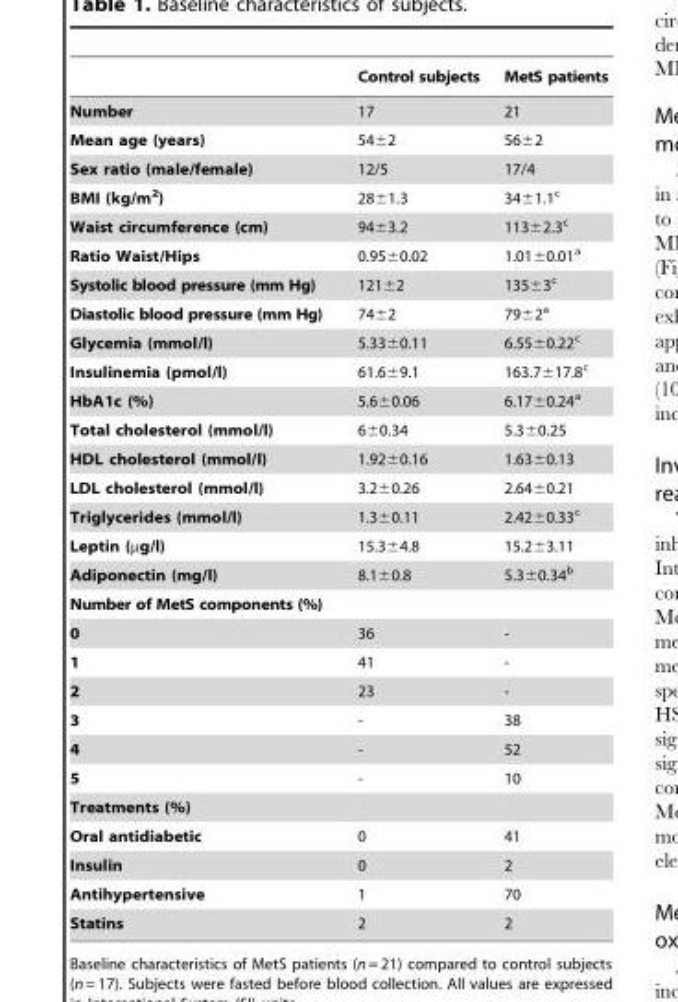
<table><thead><tr><td></td><td>Control subjects</td><td>MetS patients</td></tr></thead><tbody><tr><td>Number</td><td>17</td><td>21</td></tr><tr><td>Mean age (years)</td><td>54±2</td><td>56±2</td></tr><tr><td>Sex ratio (male/female)</td><td>12/5</td><td>17/4</td></tr><tr><td>BMI (kg/m<sup>2</sup>)</td><td>28±1.3</td><td>34±1.1<sup>c</sup></td></tr><tr><td>Waist circumference (cm)</td><td>94±3.2</td><td>113±2.3<sup>c</sup></td></tr><tr><td>Ratio Waist/Hips</td><td>0.95±0.02</td><td>1.01±0.01<sup>a</sup></td></tr><tr><td>Systolic blood pressure (mm Hg)</td><td>121±2</td><td>135±3<sup>c</sup></td></tr><tr><td>Diastolic blood pressure (mm Hg)</td><td>74±2</td><td>79±2<sup>a</sup></td></tr><tr><td>Glycemia (mmol/l)</td><td>5.33±0.11</td><td>6.55±0.22<sup>c</sup></td></tr><tr><td>Insulinemia (pmol/l)</td><td>61.6±9.1</td><td>163.7±17.8<sup>c</sup></td></tr><tr><td>HbA1c (%)</td><td>5.6±0.06</td><td>6.17±0.24<sup>a</sup></td></tr><tr><td>Total cholesterol (mmol/l)</td><td>6±0.34</td><td>5.3±0.25</td></tr><tr><td>HDL cholesterol (mmol/l)</td><td>1.92±0.16</td><td>1.63±0.13</td></tr><tr><td>LDL cholesterol (mmol/l)</td><td>3.2±0.26</td><td>2.64±0.21</td></tr><tr><td>Triglycerides (mmol/l)</td><td>1.3±0.11</td><td>2.42±0.33<sup>c</sup></td></tr><tr><td>Leptin (µg/l)</td><td>15.3±4.8</td><td>15.2±3.11</td></tr><tr><td>Adiponectin (mg/l)</td><td>8.1±0.8</td><td>5.3±0.34<sup>b</sup></td></tr><tr><td colspan="3">Number of MetS components (%)</td></tr><tr><td>0</td><td>36</td><td>-</td></tr><tr><td>1</td><td>41</td><td>-</td></tr><tr><td>2</td><td>23</td><td>-</td></tr><tr><td>3</td><td>-</td><td>38</td></tr><tr><td>4</td><td>-</td><td>52</td></tr><tr><td>5</td><td>-</td><td>10</td></tr><tr><td colspan="3">Treatments (%)</td></tr><tr><td>Oral antidiabetic</td><td>0</td><td>41</td></tr><tr><td>Insulin</td><td>0</td><td>2</td></tr><tr><td>Antihypertensive</td><td>1</td><td>70</td></tr><tr><td>Statins</td><td>2</td><td>2</td></tr></tbody></table>